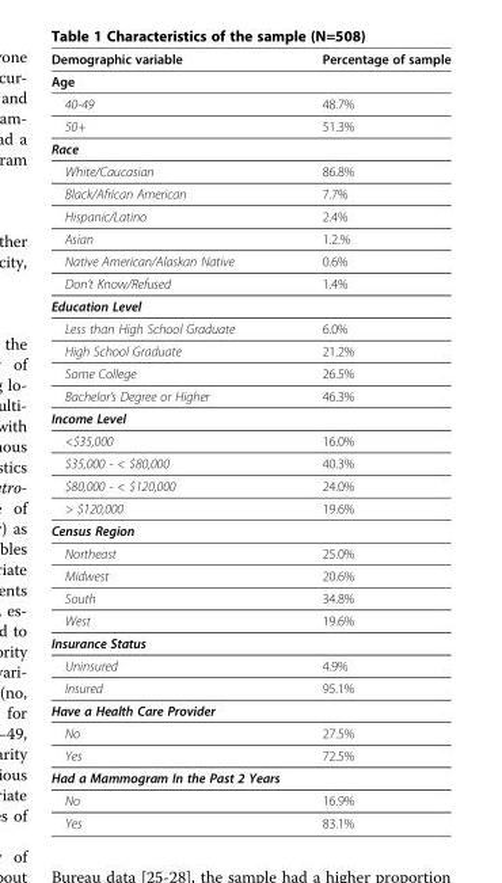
<table><thead><tr><td>Demographic variable</td><td>Percentage of sample</td></tr></thead><tbody><tr><td colspan="2">Age</td></tr><tr><td>40-49</td><td>48.7%</td></tr><tr><td>50+</td><td>51.3%</td></tr><tr><td colspan="2">Race</td></tr><tr><td>White/Caucasian</td><td>86.8%</td></tr><tr><td>Black/African American</td><td>7.7%</td></tr><tr><td>Hispanic/Latino</td><td>2.4%</td></tr><tr><td>Asian</td><td>1.2.%</td></tr><tr><td>Native American/Alaskan Native</td><td>0.6%</td></tr><tr><td>Don’t Know/Refused</td><td>1.4%</td></tr><tr><td colspan="2">Education Level</td></tr><tr><td>Less than High School Graduate</td><td>6.0%</td></tr><tr><td>High School Graduate</td><td>21.2%</td></tr><tr><td>Some College</td><td>26.5%</td></tr><tr><td>Bachelor’s Degree or Higher</td><td>46.3%</td></tr><tr><td colspan="2">Income Level</td></tr><tr><td>&lt;$35,000</td><td>16.0%</td></tr><tr><td>$35,000 - &lt; $80,000</td><td>40.3%</td></tr><tr><td>$80,000 - &lt; $120,000</td><td>24.0%</td></tr><tr><td>&gt; $120,000</td><td>19.6%</td></tr><tr><td colspan="2">Census Region</td></tr><tr><td>Northeast</td><td>25.0%</td></tr><tr><td>Midwest</td><td>20.6%</td></tr><tr><td>South</td><td>34.8%</td></tr><tr><td>West</td><td>19.6%</td></tr><tr><td colspan="2">Insurance Status</td></tr><tr><td>Uninsured</td><td>4.9%</td></tr><tr><td>Insured</td><td>95.1%</td></tr><tr><td colspan="2">Have a Health Care Provider</td></tr><tr><td>No</td><td>27.5%</td></tr><tr><td>Yes</td><td>72.5%</td></tr><tr><td colspan="2">Had a Mammogram In the Past 2 Years</td></tr><tr><td>No</td><td>16.9%</td></tr><tr><td>Yes</td><td>83.1%</td></tr></tbody></table>